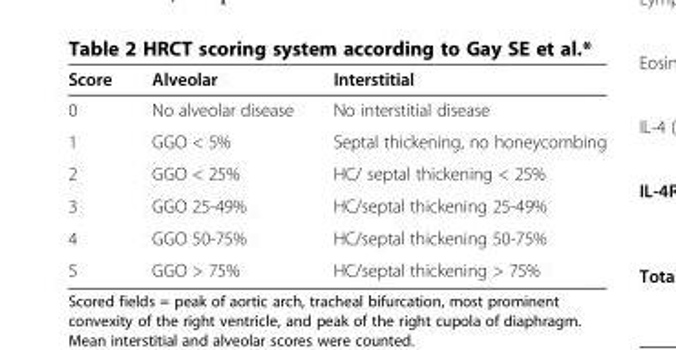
<table><thead><tr><td>Score</td><td>Alveolar</td><td>Interstitial</td></tr></thead><tbody><tr><td>0</td><td>No alveolar disease</td><td>No interstitial disease</td></tr><tr><td>1</td><td>GGO &lt; 5%</td><td>Septal thickening, no honeycombing</td></tr><tr><td>2</td><td>GGO &lt; 25%</td><td>HC/ septal thickening &lt; 25%</td></tr><tr><td>3</td><td>GGO 25-49%</td><td>HC/septal thickening 25-49%</td></tr><tr><td>4</td><td>GGO 50-75%</td><td>HC/septal thickening 50-75%</td></tr><tr><td>5</td><td>GGO &gt; 75%</td><td>HC/septal thickening &gt; 75%</td></tr></tbody></table>